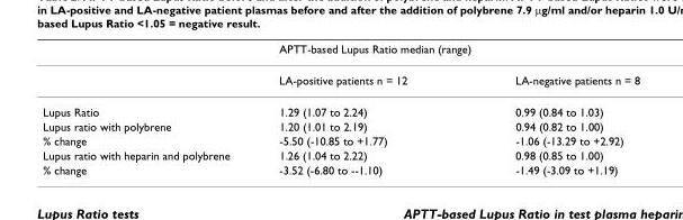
<table><thead><tr><td></td><td>APTT-based Lupus Ratio median (range)</td><td></td></tr></thead><tbody><tr><td></td><td>LA-positive patients n = 12</td><td>LA-negative patients n = 8</td></tr><tr><td>Lupus Ratio</td><td>1.29 (1.07 to 2.24)</td><td>0.99 (0.84 to 1.03)</td></tr><tr><td>Lupus ratio with polybrene</td><td>1.20 (1.01 to 2.19)</td><td>0.94 (0.82 to 1.00)</td></tr><tr><td>% change</td><td>-5.50 (-10.85 to +1.77)</td><td>-1.06 (-13.29 to +2.92)</td></tr><tr><td>Lupus ratio with heparin and polybrene</td><td>1.26 (1.04 to 2.22)</td><td>0.98 (0.85 to 1.00)</td></tr><tr><td>% change</td><td>-3.52 (-6.80 to --1.10)</td><td>-1.49 (-3.09 to +1.19)</td></tr></tbody></table>